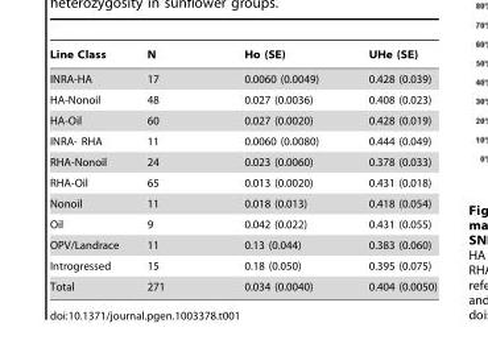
<table><thead><tr><td>Line Class</td><td>N</td><td>Ho (SE)</td><td>UHe (SE)</td></tr></thead><tbody><tr><td>INRA-HA</td><td>17</td><td>0.0060 (0.0049)</td><td>0.428 (0.039)</td></tr><tr><td>HA-Nonoil</td><td>48</td><td>0.027 (0.0036)</td><td>0.408 (0.023)</td></tr><tr><td>HA-Oil</td><td>60</td><td>0.027 (0.0020)</td><td>0.428 (0.019)</td></tr><tr><td>INRA- RHA</td><td>11</td><td>0.0060 (0.0080)</td><td>0.444 (0.049)</td></tr><tr><td>RHA-Nonoil</td><td>24</td><td>0.023 (0.0060)</td><td>0.378 (0.033)</td></tr><tr><td>RHA-Oil</td><td>65</td><td>0.013 (0.0020)</td><td>0.431 (0.018)</td></tr><tr><td>Nonoil</td><td>11</td><td>0.018 (0.013)</td><td>0.418 (0.054)</td></tr><tr><td>Oil</td><td>9</td><td>0.042 (0.022)</td><td>0.431 (0.055)</td></tr><tr><td>OPV/Landrace</td><td>11</td><td>0.13 (0.044)</td><td>0.383 (0.060)</td></tr><tr><td>Introgressed</td><td>15</td><td>0.18 (0.050)</td><td>0.395 (0.075)</td></tr><tr><td>Total</td><td>271</td><td>0.034 (0.0040)</td><td>0.404 (0.0050)</td></tr></tbody></table>